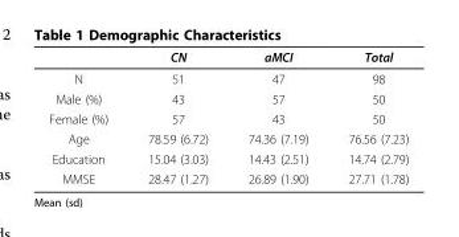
<table><thead><tr><td></td><td>CN</td><td>aMCI</td><td>Total</td></tr></thead><tbody><tr><td>N</td><td>51</td><td>47</td><td>98</td></tr><tr><td>Male (%)</td><td>43</td><td>57</td><td>50</td></tr><tr><td>Female (%)</td><td>57</td><td>43</td><td>50</td></tr><tr><td>Age</td><td>78.59 (6.72)</td><td>74.36 (7.19)</td><td>76.56 (7.23)</td></tr><tr><td>Education</td><td>15.04 (3.03)</td><td>14.43 (2.51)</td><td>14.74 (2.79)</td></tr><tr><td>MMSE</td><td>28.47 (1.27)</td><td>26.89 (1.90)</td><td>27.71 (1.78)</td></tr></tbody></table>